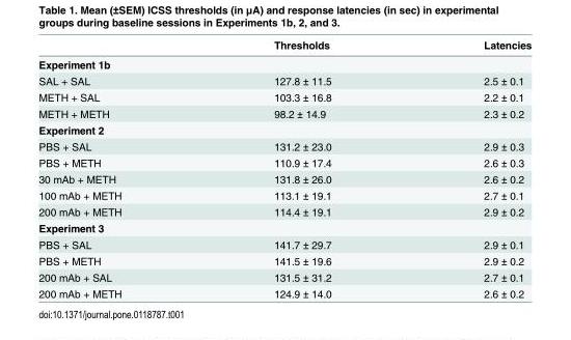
<table><thead><tr><td></td><td>Thresholds</td><td>Latencies</td></tr></thead><tbody><tr><td colspan="3">Experiment 1b</td></tr><tr><td>SAL + SAL</td><td>127.8 ± 11.5</td><td>2.5 ± 0.1</td></tr><tr><td>METH + SAL</td><td>103.3 ± 16.8</td><td>2.2 ± 0.1</td></tr><tr><td>METH + METH</td><td>98.2 ± 14.9</td><td>2.3 ± 0.2</td></tr><tr><td colspan="3">Experiment 2</td></tr><tr><td>PBS + SAL</td><td>131.2 ± 23.0</td><td>2.9 ± 0.3</td></tr><tr><td>PBS + METH</td><td>110.9 ± 17.4</td><td>2.6 ± 0.3</td></tr><tr><td>30 mAb + METH</td><td>131.8 ± 26.0</td><td>2.6 ± 0.2</td></tr><tr><td>100 mAb + METH</td><td>113.1 ± 19.1</td><td>2.7 ± 0.1</td></tr><tr><td>200 mAb + METH</td><td>114.4 ± 19.1</td><td>2.9 ± 0.2</td></tr><tr><td colspan="3">Experiment 3</td></tr><tr><td>PBS + SAL</td><td>141.7 ± 29.7</td><td>2.9 ± 0.1</td></tr><tr><td>PBS + METH</td><td>141.5 ± 19.6</td><td>2.9 ± 0.2</td></tr><tr><td>200 mAb + SAL</td><td>131.5 ± 31.2</td><td>2.7 ± 0.1</td></tr><tr><td>200 mAb + METH</td><td>124.9 ± 14.0</td><td>2.6 ± 0.2</td></tr></tbody></table>